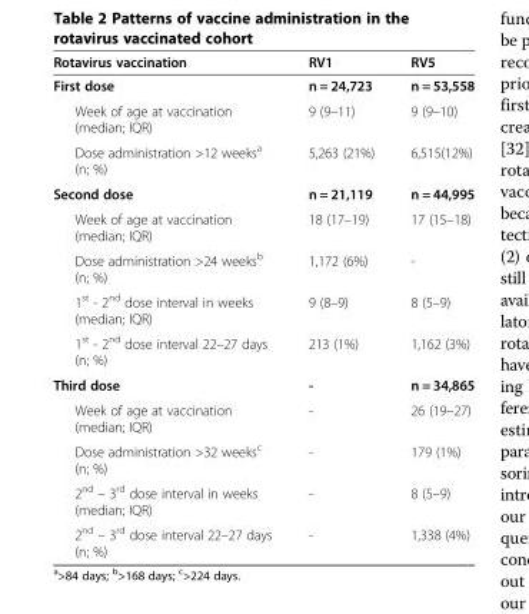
<table><thead><tr><td>Rotavirus vaccination</td><td>RV1</td><td>RV5</td></tr></thead><tbody><tr><td>First dose</td><td>n = 24,723</td><td>n = 53,558</td></tr><tr><td>Week of age at vaccination (median; IQR)</td><td>9 (9–11)</td><td>9 (9–10)</td></tr><tr><td>Dose administration &gt;12 weeks<sup>a</sup> (n; %)</td><td>5,263 (21%)</td><td>6,515(12%)</td></tr><tr><td>Second dose</td><td>n = 21,119</td><td>n = 44,995</td></tr><tr><td>Week of age at vaccination (median; IQR)</td><td>18 (17–19)</td><td>17 (15–18)</td></tr><tr><td>Dose administration &gt;24 weeks<sup>b</sup> (n; %)</td><td>1,172 (6%)</td><td>-</td></tr><tr><td>1<sup>st</sup> - 2<sup>nd</sup> dose interval in weeks (median; IQR)</td><td>9 (8–9)</td><td>8 (5–9)</td></tr><tr><td>1<sup>st</sup> - 2<sup>nd</sup> dose interval 22–27 days (n; %)</td><td>213 (1%)</td><td>1,162 (3%)</td></tr><tr><td>Third dose</td><td>-</td><td>n = 34,865</td></tr><tr><td>Week of age at vaccination (median; IQR)</td><td>-</td><td>26 (19–27)</td></tr><tr><td>Dose administration &gt;32 weeks<sup>c</sup> (n; %)</td><td>-</td><td>179 (1%)</td></tr><tr><td>2<sup>nd</sup> – 3<sup>rd</sup> dose interval in weeks (median; IQR)</td><td>-</td><td>8 (5–9)</td></tr><tr><td>2<sup>nd</sup> – 3<sup>rd</sup> dose interval 22–27 days (n; %)</td><td>-</td><td>1,338 (4%)</td></tr></tbody></table>